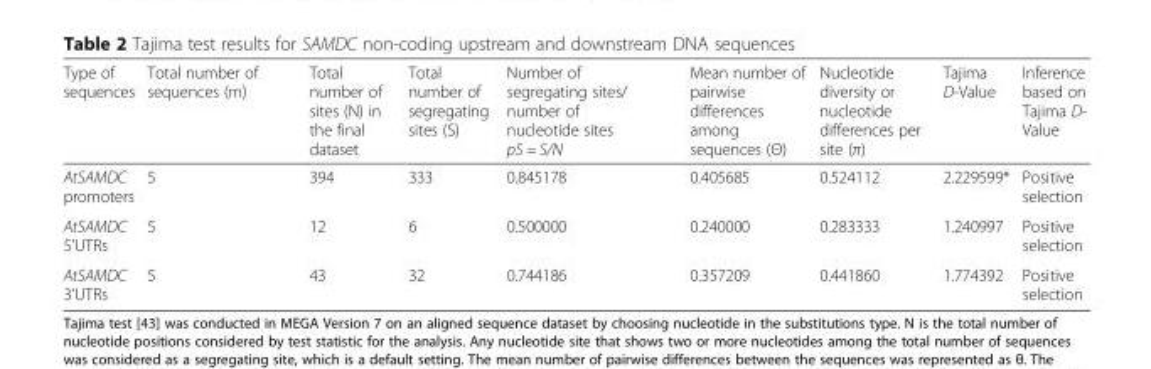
<table><thead><tr><td>Type of sequences</td><td>Total number of sequences (m)</td><td>Total number of sites (N) in the final dataset</td><td>Total number of segregating sites (S)</td><td>Number of segregating sites/ number of nucleotide sites pS = S/N</td><td>Mean number of pairwise differences among sequences (Θ)</td><td>Nucleotide diversity or nucleotide differences per site (π)</td><td>Tajima D-Value</td><td>Inference based on Tajima D- Value</td></tr></thead><tbody><tr><td>AtSAMDC promoters</td><td>5</td><td>394</td><td>333</td><td>0.845178</td><td>0.405685</td><td>0.524112</td><td>2.229599*</td><td>Positive selection</td></tr><tr><td>AtSAMDC 5’UTRs</td><td>5</td><td>12</td><td>6</td><td>0.500000</td><td>0.240000</td><td>0.283333</td><td>1.240997</td><td>Positive selection</td></tr><tr><td>AtSAMDC 3’UTRs</td><td>5</td><td>43</td><td>32</td><td>0.744186</td><td>0.357209</td><td>0.441860</td><td>1.774392</td><td>Positive selection</td></tr></tbody></table>